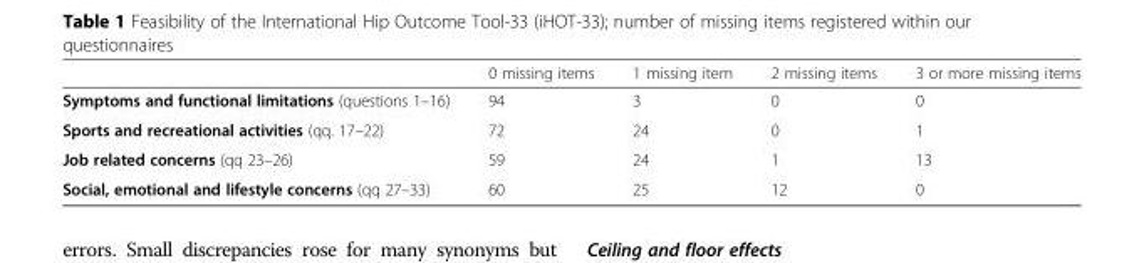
<table><thead><tr><td></td><td>0 missing items</td><td>1 missing item</td><td>2 missing items</td><td>3 or more missing items</td></tr></thead><tbody><tr><td>Symptoms and functional limitations (questions 1–16)</td><td>94</td><td>3</td><td>0</td><td>0</td></tr><tr><td>Sports and recreational activities (qq. 17–22)</td><td>72</td><td>24</td><td>0</td><td>1</td></tr><tr><td>Job related concerns (qq 23–26)</td><td>59</td><td>24</td><td>1</td><td>13</td></tr><tr><td>Social, emotional and lifestyle concerns (qq 27–33)</td><td>60</td><td>25</td><td>12</td><td>0</td></tr></tbody></table>